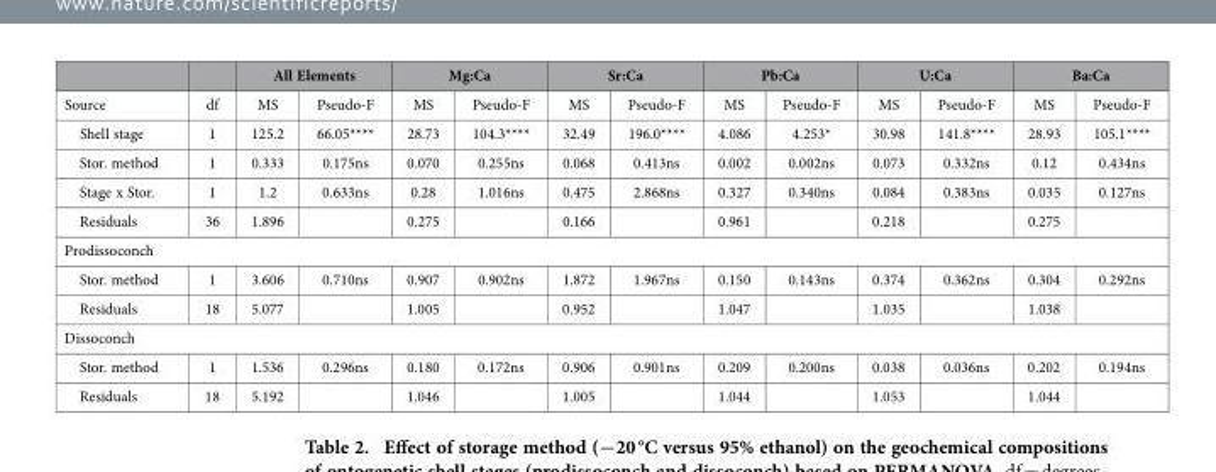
<table><thead><tr><td rowspan="2">Source</td><td rowspan="2">df</td><td colspan="2">All Elements</td><td colspan="2">Mg:Ca</td><td colspan="2">Sr:Ca</td><td colspan="2">Pb:Ca</td><td colspan="2">U:Ca</td><td colspan="2">Ba:Ca</td></tr><tr><td>MS</td><td>Pseudo-F</td><td>MS</td><td>Pseudo-F</td><td>MS</td><td>Pseudo-F</td><td>MS</td><td>Pseudo-F</td><td>MS</td><td>Pseudo-F</td><td>MS</td><td>Pseudo-F</td></tr></thead><tbody><tr><td>Shell stage</td><td>1</td><td>125.2</td><td>66.05****</td><td>28.73</td><td>104.3****</td><td>32.49</td><td>196.0****</td><td>4.086</td><td>4.253*</td><td>30.98</td><td>141.8****</td><td>28.93</td><td>105.1****</td></tr><tr><td>Stor. method</td><td>1</td><td>0.333</td><td>0.175ns</td><td>0.070</td><td>0.255ns</td><td>0.068</td><td>0.413ns</td><td>0.002</td><td>0.002ns</td><td>0.073</td><td>0.332ns</td><td>0.12</td><td>0.434ns</td></tr><tr><td>Stage x Stor.</td><td>1</td><td>1.2</td><td>0.633ns</td><td>0.28</td><td>1.016ns</td><td>0.475</td><td>2.868ns</td><td>0.327</td><td>0.340ns</td><td>0.084</td><td>0.383ns</td><td>0.035</td><td>0.127ns</td></tr><tr><td>Residuals</td><td>36</td><td>1.896</td><td></td><td>0.275</td><td></td><td>0.166</td><td></td><td>0.961</td><td></td><td>0.218</td><td></td><td>0.275</td><td></td></tr><tr><td colspan="14">Prodissoconch</td></tr><tr><td>Stor. method</td><td>1</td><td>3.606</td><td>0.710ns</td><td>0.907</td><td>0.902ns</td><td>1.872</td><td>1.967ns</td><td>0.150</td><td>0.143ns</td><td>0.374</td><td>0.362ns</td><td>0.304</td><td>0.292ns</td></tr><tr><td>Residuals</td><td>18</td><td>5.077</td><td></td><td>1.005</td><td></td><td>0.952</td><td></td><td>1.047</td><td></td><td>1.035</td><td></td><td>1.038</td><td></td></tr><tr><td colspan="14">Dissoconch</td></tr><tr><td>Stor. method</td><td>1</td><td>1.536</td><td>0.296ns</td><td>0.180</td><td>0.172ns</td><td>0.906</td><td>0.901ns</td><td>0.209</td><td>0.200ns</td><td>0.038</td><td>0.036ns</td><td>0.202</td><td>0.194ns</td></tr><tr><td>Residuals</td><td>18</td><td>5.192</td><td></td><td>1.046</td><td></td><td>1.005</td><td></td><td>1.044</td><td></td><td>1.053</td><td></td><td>1.044</td><td></td></tr></tbody></table>